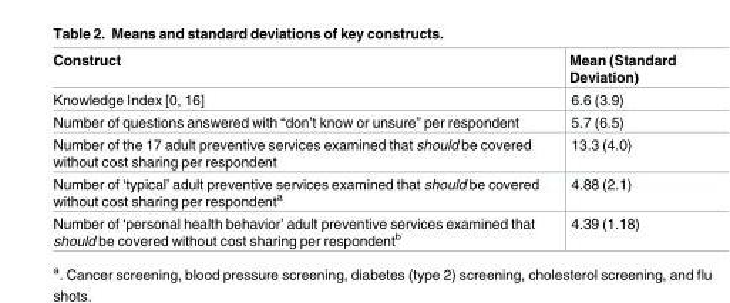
<table><thead><tr><td>Construct</td><td>Mean (Standard Deviation)</td></tr></thead><tbody><tr><td>Knowledge Index [0, 16]</td><td>6.6 (3.9)</td></tr><tr><td>Number of questions answered with “don’t know or unsure” per respondent</td><td>5.7 (6.5)</td></tr><tr><td>Number of the 17 adult preventive services examined that should be covered without cost sharing per respondent</td><td>13.3 (4.0)</td></tr><tr><td>Number of ‘typical’ adult preventive services examined that should be covered without cost sharing per respondent<sup>a</sup></td><td>4.88 (2.1)</td></tr><tr><td>Number of ‘personal health behavior’ adult preventive services examined that should be covered without cost sharing per respondent<sup>b</sup></td><td>4.39 (1.18)</td></tr></tbody></table>